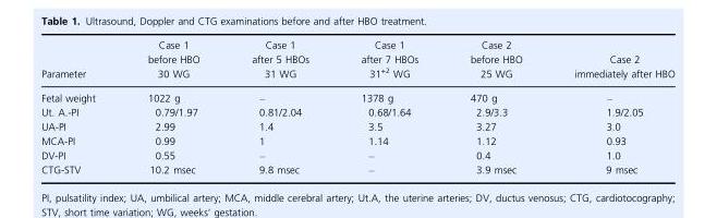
<table><thead><tr><td>Parameter</td><td>Case 1 before HBO 30 WG</td><td>Case 1 after 5 HBOs 31 WG</td><td>Case 1 after 7 HBOs 31<sup>+2</sup> WG</td><td>Case 2 before HBO 25 WG</td><td>Case 2 immediately after HBO</td></tr></thead><tbody><tr><td>Fetal weight</td><td>1022 g</td><td>–</td><td>1378 g</td><td>470 g</td><td>–</td></tr><tr><td>Ut. A.-PI</td><td>0.79/1.97</td><td>0.81/2.04</td><td>0.68/1.64</td><td>2.9/3.3</td><td>1.9/2.05</td></tr><tr><td>UA-PI</td><td>2.99</td><td>1.4</td><td>3.5</td><td>3.27</td><td>3.0</td></tr><tr><td>MCA-PI</td><td>0.99</td><td>1</td><td>1.14</td><td>1.12</td><td>0.93</td></tr><tr><td>DV-PI</td><td>0.55</td><td>–</td><td>–</td><td>0.4</td><td>1.0</td></tr><tr><td>CTG-STV</td><td>10.2 msec</td><td>9.8 msec</td><td>–</td><td>3.9 msec</td><td>9 msec</td></tr></tbody></table>